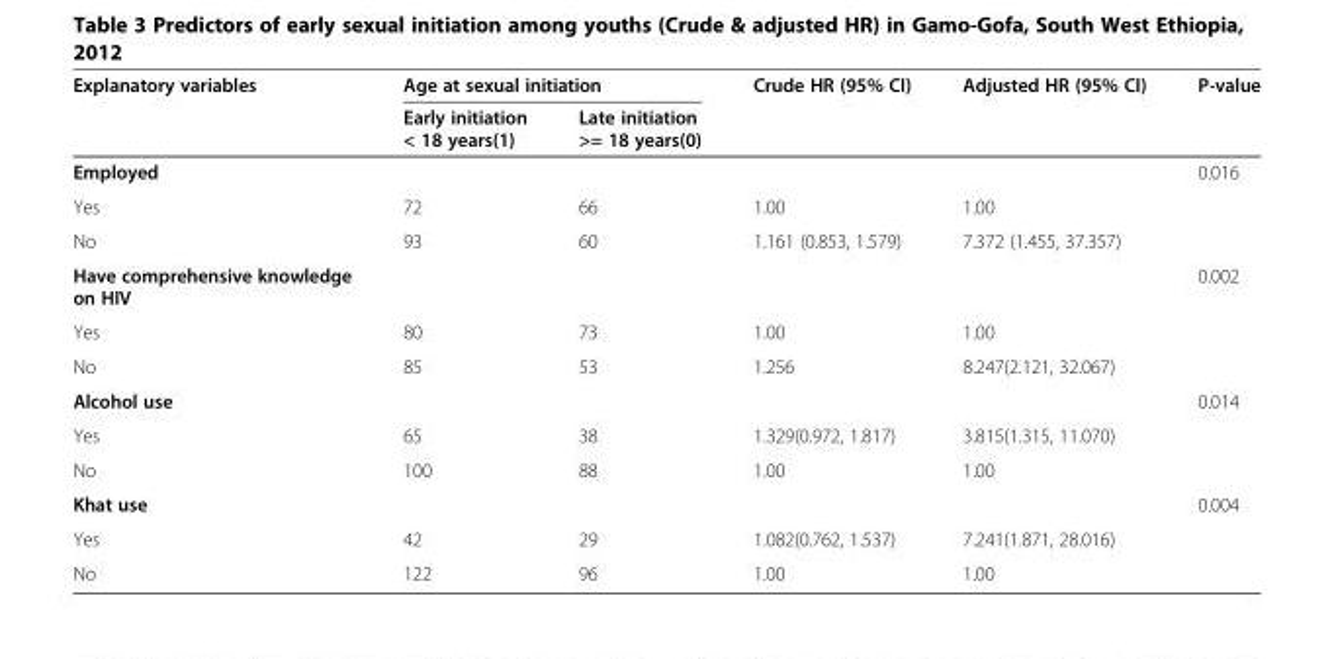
<table><thead><tr><td rowspan="2">Explanatory variables</td><td colspan="2">Age at sexual initiation</td><td rowspan="2">Crude HR (95% CI)</td><td rowspan="2">Adjusted HR (95% CI)</td><td rowspan="2">P-value</td></tr><tr><td>Early initiation &lt; 18 years(1)</td><td>Late initiation &gt;= 18 years(0)</td></tr></thead><tbody><tr><td colspan="5">Employed</td><td rowspan="3">0.016</td></tr><tr><td>Yes</td><td>72</td><td>66</td><td>1.00</td><td>1.00</td></tr><tr><td>No</td><td>93</td><td>60</td><td>1.161 (0.853, 1.579)</td><td>7.372 (1.455, 37.357)</td></tr><tr><td colspan="5">Have comprehensive knowledge on HIV</td><td rowspan="3">0.002</td></tr><tr><td>Yes</td><td>80</td><td>73</td><td>1.00</td><td>1.00</td></tr><tr><td>No</td><td>85</td><td>53</td><td>1.256</td><td>8.247(2.121, 32.067)</td></tr><tr><td colspan="5">Alcohol use</td><td rowspan="3">0.014</td></tr><tr><td>Yes</td><td>65</td><td>38</td><td>1.329(0.972, 1.817)</td><td>3.815(1.315, 11.070)</td></tr><tr><td>No</td><td>100</td><td>88</td><td>1.00</td><td>1.00</td></tr><tr><td colspan="5">Khat use</td><td rowspan="3">0.004</td></tr><tr><td>Yes</td><td>42</td><td>29</td><td>1.082(0.762, 1.537)</td><td>7.241(1.871, 28.016)</td></tr><tr><td>No</td><td>122</td><td>96</td><td>1.00</td><td>1.00</td></tr></tbody></table>